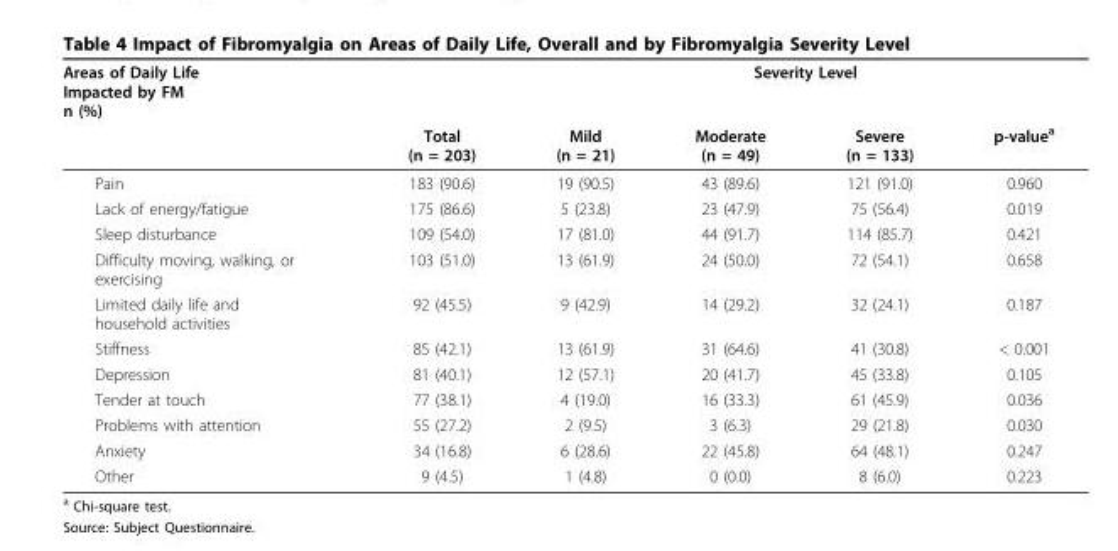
<table><thead><tr><td rowspan="2">Areas of Daily Life Impacted by FM n (%)</td><td rowspan="2">Total (n = 203)</td><td colspan="4">Severity Level</td></tr><tr><td>Mild (n = 21)</td><td>Moderate (n = 49)</td><td>Severe (n = 133)</td><td>p-value<sup>a</sup></td></tr></thead><tbody><tr><td>Pain</td><td>183 (90.6)</td><td>19 (90.5)</td><td>43 (89.6)</td><td>121 (91.0)</td><td>0.960</td></tr><tr><td>Lack of energy/fatigue</td><td>175 (86.6)</td><td>5 (23.8)</td><td>23 (47.9)</td><td>75 (56.4)</td><td>0.019</td></tr><tr><td>Sleep disturbance</td><td>109 (54.0)</td><td>17 (81.0)</td><td>44 (91.7)</td><td>114 (85.7)</td><td>0.421</td></tr><tr><td>Difficulty moving, walking, or exercising</td><td>103 (51.0)</td><td>13 (61.9)</td><td>24 (50.0)</td><td>72 (54.1)</td><td>0.658</td></tr><tr><td>Limited daily life and household activities</td><td>92 (45.5)</td><td>9 (42.9)</td><td>14 (29.2)</td><td>32 (24.1)</td><td>0.187</td></tr><tr><td>Stiffness</td><td>85 (42.1)</td><td>13 (61.9)</td><td>31 (64.6)</td><td>41 (30.8)</td><td>&lt; 0.001</td></tr><tr><td>Depression</td><td>81 (40.1)</td><td>12 (57.1)</td><td>20 (41.7)</td><td>45 (33.8)</td><td>0.105</td></tr><tr><td>Tender at touch</td><td>77 (38.1)</td><td>4 (19.0)</td><td>16 (33.3)</td><td>61 (45.9)</td><td>0.036</td></tr><tr><td>Problems with attention</td><td>55 (27.2)</td><td>2 (9.5)</td><td>3 (6.3)</td><td>29 (21.8)</td><td>0.030</td></tr><tr><td>Anxiety</td><td>34 (16.8)</td><td>6 (28.6)</td><td>22 (45.8)</td><td>64 (48.1)</td><td>0.247</td></tr><tr><td>Other</td><td>9 (4.5)</td><td>1 (4.8)</td><td>0 (0.0)</td><td>8 (6.0)</td><td>0.223</td></tr></tbody></table>